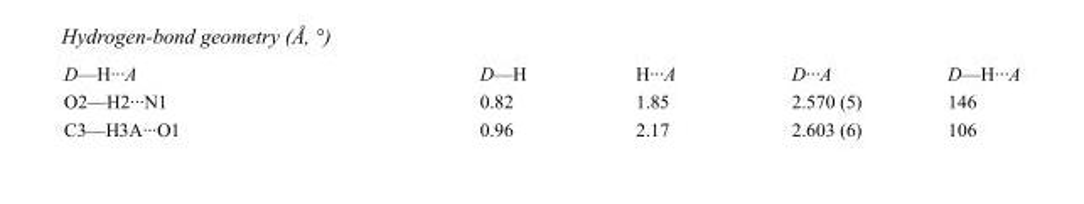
<table><tbody><tr><td>D—H···A</td><td>D—H</td><td>H···A</td><td>D···A</td><td>D—H···A</td></tr><tr><td>O2—H2···N1</td><td>0.82</td><td>1.85</td><td>2.570 (5)</td><td>146</td></tr><tr><td>C3—H3A···O1</td><td>0.96</td><td>2.17</td><td>2.603 (6)</td><td>106</td></tr></tbody></table>